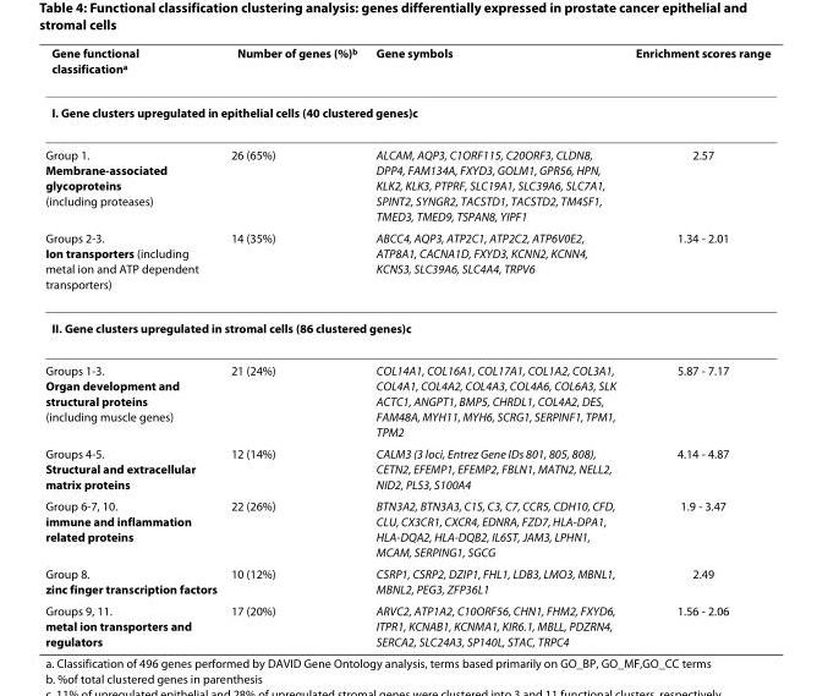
<table><thead><tr><td>Gene functional classification<sup>a</sup></td><td>Number of genes (%)<sup>b</sup></td><td>Gene symbols</td><td>Enrichment scores range</td></tr></thead><tbody><tr><td colspan="4">I. Gene clusters upregulated in epithelial cells (40 clustered genes)<sup>c</sup></td></tr><tr><td>Group 1. Membrane-associated glycoproteins (including proteases)</td><td>26 (65%)</td><td>ALCAM, AQP3, C1ORF115, C20ORF3, CLDN8, DPP4, FAM134A, FXYD3, GOLM1, GPR56, HPN, KLK2, KLK3, PTPRF, SLC19A1, SLC39A6, SLC7A1, SPINT2, SYNGR2, TACSTD1, TACSTD2, TM4SF1, TMED3, TMED9, TSPAN8, YIPF1</td><td>2.57</td></tr><tr><td>Groups 2-3. Ion transporters (including metal ion and ATP dependent transporters)</td><td>14 (35%)</td><td>ABCC4, AQP3, ATP2C1, ATP2C2, ATP6V0E2, ATP8A1, CACNA1D, FXYD3, KCNN2, KCNN4, KCNS3, SLC39A6, SLC4A4, TRPV6</td><td>1.34 - 2.01</td></tr><tr><td colspan="4">II. Gene clusters upregulated in stromal cells (86 clustered genes)<sup>c</sup></td></tr><tr><td>Groups 1-3. Organ development and structural proteins (including muscle genes)</td><td>21 (24%)</td><td>COL14A1, COL16A1, COL17A1, COL1A2, COL3A1, COL4A1, COL4A2, COL4A3, COL4A6, COL6A3, SLK ACTC1, ANGPT1, BMP5, CHRDL1, COL4A2, DES, FAM48A, MYH11, MYH6, SCRG1, SERPINF1, TPM1, TPM2</td><td>5.87 - 7.17</td></tr><tr><td>Groups 4-5. Structural and extracellular matrix proteins</td><td>12 (14%)</td><td>CALM3 (3 loci, Entrez Gene IDs 801, 805, 808), CETN2, EFEMP1, EFEMP2, FBLN1, MATN2, NELL2, NID2, PLS3, S100A4</td><td>4.14 - 4.87</td></tr><tr><td>Group 6-7, 10. immune and inflammation related proteins</td><td>22 (26%)</td><td>BTN3A2, BTN3A3, C1S, C3, C7, CCR5, CDH10, CFD, CLU, CX3CR1, CXCR4, EDNRA, FZD7, HLA-DPA1, HLA-DQA2, HLA-DQB2, IL6ST, JAM3, LPHN1, MCAM, SERPING1, SGCG</td><td>1.9 - 3.47</td></tr><tr><td>Group 8. zinc finger transcription factors</td><td>10 (12%)</td><td>CSRP1, CSRP2, DZIP1, FHL1, LDB3, LMO3, MBNL1, MBNL2, PEG3, ZFP36L1</td><td>2.49</td></tr><tr><td>Groups 9, 11. metal ion transporters and regulators</td><td>17 (20%)</td><td>ARVC2, ATP1A2, C10ORF56, CHN1, FHM2, FXYD6, ITPR1, KCNAB1, KCNMA1, KIR6.1, MBLL, PDZRN4, SERCA2, SLC24A3, SP140L, STAC, TRPC4</td><td>1.56 - 2.06</td></tr></tbody></table>